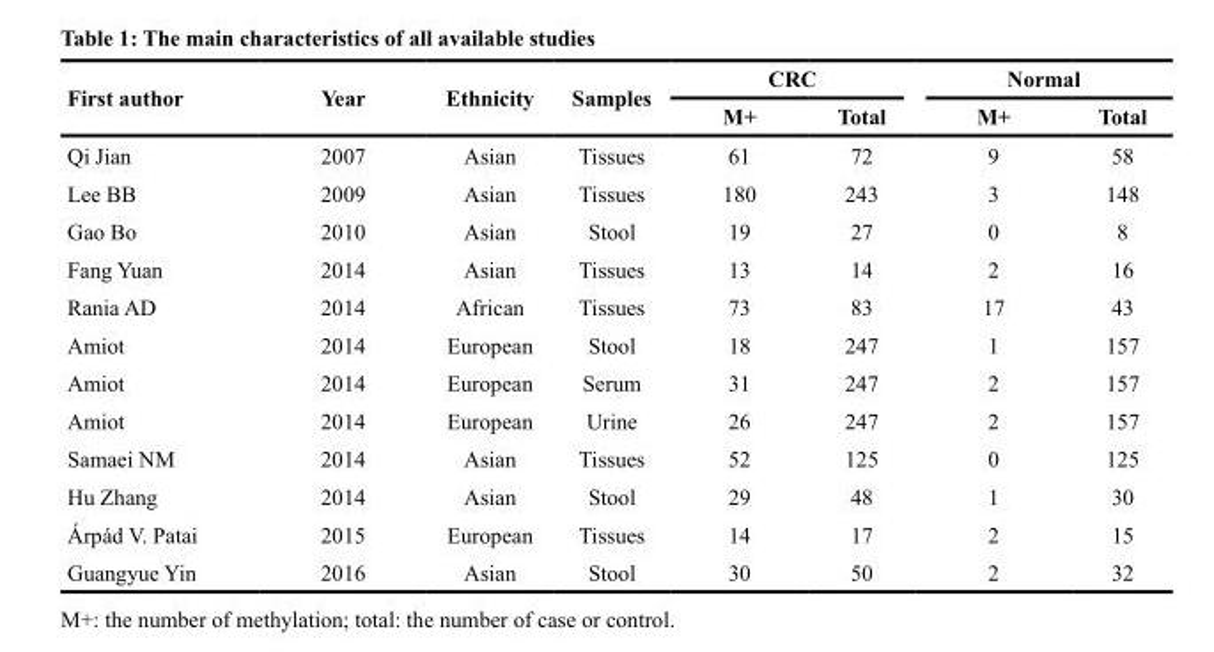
<table><thead><tr><td rowspan="2">First author</td><td rowspan="2">Year</td><td rowspan="2">Ethnicity</td><td rowspan="2">Samples</td><td colspan="2">CRC</td><td colspan="2">Normal</td></tr><tr><td>M+</td><td>Total</td><td>M+</td><td>Total</td></tr></thead><tbody><tr><td>Qi Jian</td><td>2007</td><td>Asian</td><td>Tissues</td><td>61</td><td>72</td><td>9</td><td>58</td></tr><tr><td>Lee BB</td><td>2009</td><td>Asian</td><td>Tissues</td><td>180</td><td>243</td><td>3</td><td>148</td></tr><tr><td>Gao Bo</td><td>2010</td><td>Asian</td><td>Stool</td><td>19</td><td>27</td><td>0</td><td>8</td></tr><tr><td>Fang Yuan</td><td>2014</td><td>Asian</td><td>Tissues</td><td>13</td><td>14</td><td>2</td><td>16</td></tr><tr><td>Rania AD</td><td>2014</td><td>African</td><td>Tissues</td><td>73</td><td>83</td><td>17</td><td>43</td></tr><tr><td>Amiot</td><td>2014</td><td>European</td><td>Stool</td><td>18</td><td>247</td><td>1</td><td>157</td></tr><tr><td>Amiot</td><td>2014</td><td>European</td><td>Serum</td><td>31</td><td>247</td><td>2</td><td>157</td></tr><tr><td>Amiot</td><td>2014</td><td>European</td><td>Urine</td><td>26</td><td>247</td><td>2</td><td>157</td></tr><tr><td>Samaei NM</td><td>2014</td><td>Asian</td><td>Tissues</td><td>52</td><td>125</td><td>0</td><td>125</td></tr><tr><td>Hu Zhang</td><td>2014</td><td>Asian</td><td>Stool</td><td>29</td><td>48</td><td>1</td><td>30</td></tr><tr><td>Árpád V. Patai</td><td>2015</td><td>European</td><td>Tissues</td><td>14</td><td>17</td><td>2</td><td>15</td></tr><tr><td>Guangyue Yin</td><td>2016</td><td>Asian</td><td>Stool</td><td>30</td><td>50</td><td>2</td><td>32</td></tr></tbody></table>